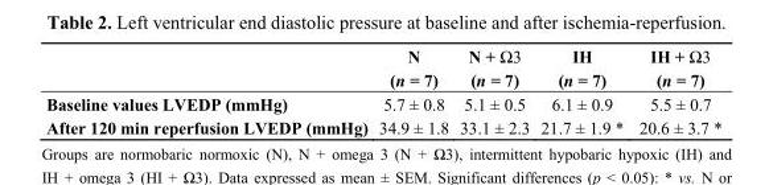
<table><thead><tr><td rowspan="2"></td><td rowspan="2">N (n = 7)</td><td rowspan="2">N + Ω3 (n = 7)</td><td rowspan="2">IH (n = 7)</td><td rowspan="2">IH + Ω3 (n = 7)</td></tr><tr></tr></thead><tbody><tr><td>Baseline values LVEDP (mmHg)</td><td>5.7 ± 0.8</td><td>5.1 ± 0.5</td><td>6.1 ± 0.9</td><td>5.5 ± 0.7</td></tr><tr><td>After 120 min reperfusion LVEDP (mmHg)</td><td>34.9 ± 1.8</td><td>33.1 ± 2.3</td><td>21.7 ± 1.9 *</td><td>20.6 ± 3.7 *</td></tr></tbody></table>